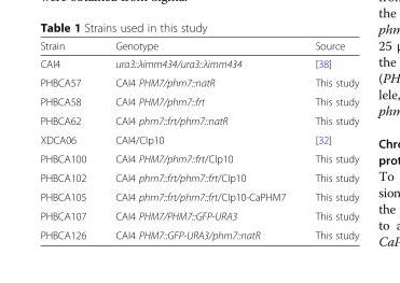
<table><thead><tr><td>Strain</td><td>Genotype</td><td>Source</td></tr></thead><tbody><tr><td>CAI4</td><td>ura3::λimm434/ura3::λimm434</td><td>[38]</td></tr><tr><td>PHBCA57</td><td>CAI4 PHM7/phm7::natR</td><td>This study</td></tr><tr><td>PHBCA58</td><td>CAI4 PHM7/phm7::frt</td><td>This study</td></tr><tr><td>PHBCA62</td><td>CAI4 phm7::frt/phm7::natR</td><td>This study</td></tr><tr><td>XDCA06</td><td>CAI4/CIp10</td><td>[32]</td></tr><tr><td>PHBCA100</td><td>CAI4 PHM7/phm7::frt/CIp10</td><td>This study</td></tr><tr><td>PHBCA102</td><td>CAI4 phm7::frt/phm7::frt/CIp10</td><td>This study</td></tr><tr><td>PHBCA105</td><td>CAI4 phm7::frt/phm7::frt/CIp10-CaPHM7</td><td>This study</td></tr><tr><td>PHBCA107</td><td>CAI4 PHM7/PHM7::GFP-URA3</td><td>This study</td></tr><tr><td>PHBCA126</td><td>CAI4 PHM7::GFP-URA3/phm7::natR</td><td>This study</td></tr></tbody></table>